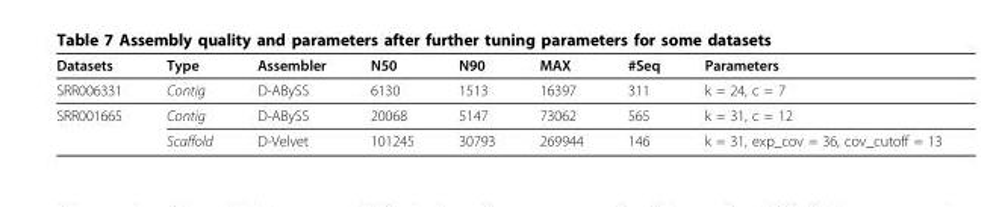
<table><thead><tr><td>Datasets</td><td>Type</td><td>Assembler</td><td>N50</td><td>N90</td><td>MAX</td><td>#Seq</td><td>Parameters</td></tr></thead><tbody><tr><td>SRR006331</td><td>Contig</td><td>D-ABySS</td><td>6130</td><td>1513</td><td>16397</td><td>311</td><td>k = 24, c = 7</td></tr><tr><td rowspan="2">SRR001665</td><td>Contig</td><td>D-ABySS</td><td>20068</td><td>5147</td><td>73062</td><td>565</td><td>k = 31, c = 12</td></tr><tr><td>Scaffold</td><td>D-Velvet</td><td>101245</td><td>30793</td><td>269944</td><td>146</td><td>k = 31, exp_cov = 36, cov_cutoff = 13</td></tr></tbody></table>